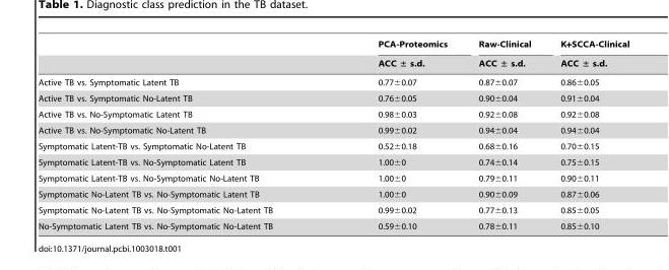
<table><thead><tr><td rowspan="2"></td><td rowspan="2">PCA-Proteomics ACC ± s.d.</td><td rowspan="2">Raw-Clinical ACC ± s.d.</td><td rowspan="2">K+SCCA-Clinical ACC ± s.d.</td></tr><tr></tr></thead><tbody><tr><td>Active TB vs. Symptomatic Latent TB</td><td>0.77±0.07</td><td>0.87±0.07</td><td>0.86±0.05</td></tr><tr><td>Active TB vs. Symptomatic No-Latent TB</td><td>0.76±0.05</td><td>0.90±0.04</td><td>0.91±0.04</td></tr><tr><td>Active TB vs. No-Symptomatic Latent TB</td><td>0.98±0.03</td><td>0.92±0.08</td><td>0.92±0.08</td></tr><tr><td>Active TB vs. No-Symptomatic No-Latent TB</td><td>0.99±0.02</td><td>0.94±0.04</td><td>0.94±0.04</td></tr><tr><td>Symptomatic Latent-TB vs. Symptomatic No-Latent TB</td><td>0.52±0.18</td><td>0.68±0.16</td><td>0.70±0.15</td></tr><tr><td>Symptomatic Latent-TB vs. No-Symptomatic Latent TB</td><td>1.00±0</td><td>0.74±0.14</td><td>0.75±0.15</td></tr><tr><td>Symptomatic Latent-TB vs. No-Symptomatic No-Latent TB</td><td>1.00±0</td><td>0.79±0.11</td><td>0.90±0.11</td></tr><tr><td>Symptomatic No-Latent TB vs. No-Symptomatic Latent TB</td><td>1.00±0</td><td>0.90±0.09</td><td>0.87±0.06</td></tr><tr><td>Symptomatic No-Latent TB vs. No-Symptomatic No-Latent TB</td><td>0.99±0.02</td><td>0.77±0.13</td><td>0.85±0.05</td></tr><tr><td>No-Symptomatic Latent TB vs. No-Symptomatic No-Latent TB</td><td>0.59±0.10</td><td>0.78±0.11</td><td>0.85±0.10</td></tr></tbody></table>